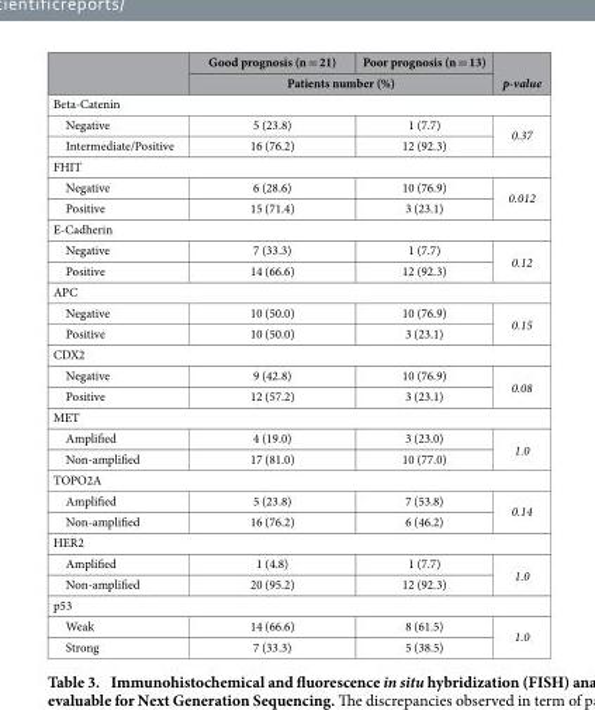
<table><thead><tr><td rowspan="2"></td><td>Good prognosis (n = 21)</td><td>Poor prognosis (n = 13)</td><td rowspan="2">p-value</td></tr><tr><td colspan="2">Patients number (%)</td></tr></thead><tbody><tr><td colspan="4">Beta-Catenin</td></tr><tr><td>Negative</td><td>5 (23.8)</td><td>1 (7.7)</td><td rowspan="2">0.37</td></tr><tr><td>Intermediate/Positive</td><td>16 (76.2)</td><td>12 (92.3)</td></tr><tr><td colspan="4">FHIT</td></tr><tr><td>Negative</td><td>6 (28.6)</td><td>10 (76.9)</td><td rowspan="2">0.012</td></tr><tr><td>Positive</td><td>15 (71.4)</td><td>3 (23.1)</td></tr><tr><td colspan="4">E-Cadherin</td></tr><tr><td>Negative</td><td>7 (33.3)</td><td>1 (7.7)</td><td rowspan="2">0.12</td></tr><tr><td>Positive</td><td>14 (66.6)</td><td>12 (92.3)</td></tr><tr><td colspan="4">APC</td></tr><tr><td>Negative</td><td>10 (50.0)</td><td>10 (76.9)</td><td rowspan="2">0.15</td></tr><tr><td>Positive</td><td>10 (50.0)</td><td>3 (23.1)</td></tr><tr><td colspan="4">CDX2</td></tr><tr><td>Negative</td><td>9 (42.8)</td><td>10 (76.9)</td><td rowspan="2">0.08</td></tr><tr><td>Positive</td><td>12 (57.2)</td><td>3 (23.1)</td></tr><tr><td colspan="4">MET</td></tr><tr><td>Amplified</td><td>4 (19.0)</td><td>3 (23.0)</td><td rowspan="2">1.0</td></tr><tr><td>Non-amplified</td><td>17 (81.0)</td><td>10 (77.0)</td></tr><tr><td colspan="4">TOPO2A</td></tr><tr><td>Amplified</td><td>5 (23.8)</td><td>7 (53.8)</td><td rowspan="2">0.14</td></tr><tr><td>Non-amplified</td><td>16 (76.2)</td><td>6 (46.2)</td></tr><tr><td colspan="4">HER2</td></tr><tr><td>Amplified</td><td>1 (4.8)</td><td>1 (7.7)</td><td rowspan="2">1.0</td></tr><tr><td>Non-amplified</td><td>20 (95.2)</td><td>12 (92.3)</td></tr><tr><td colspan="4">p53</td></tr><tr><td>Weak</td><td>14 (66.6)</td><td>8 (61.5)</td><td rowspan="2">1.0</td></tr><tr><td>Strong</td><td>7 (33.3)</td><td>5 (38.5)</td></tr></tbody></table>